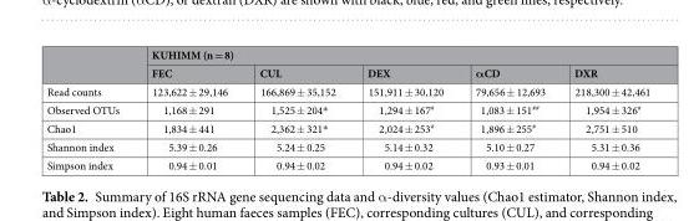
<table><thead><tr><td rowspan="2"></td><td colspan="5">KUHIMM (n = 8)</td></tr><tr><td>FEC</td><td>CUL</td><td>DEX</td><td>αCD</td><td>DXR</td></tr></thead><tbody><tr><td>Read counts</td><td>123,622 ± 29,146</td><td>166,869 ± 35,152</td><td>151,911 ± 30,120</td><td>79,656 ± 12,693</td><td>218,300 ± 42,461</td></tr><tr><td>Observed OTUs</td><td>1,168 ± 291</td><td>1,525 ± 204*</td><td>1,294 ± 167<sup>#</sup></td><td>1,083 ± 151<sup>##</sup></td><td>1,954 ± 326<sup>#</sup></td></tr><tr><td>Chao1</td><td>1,834 ± 441</td><td>2,362 ± 321*</td><td>2,024 ± 253<sup>#</sup></td><td>1,896 ± 255<sup>#</sup></td><td>2,751 ± 510</td></tr><tr><td>Shannon index</td><td>5.39 ± 0.26</td><td>5.24 ± 0.25</td><td>5.14 ± 0.32</td><td>5.10 ± 0.27</td><td>5.31 ± 0.36</td></tr><tr><td>Simpson index</td><td>0.94 ± 0.01</td><td>0.94 ± 0.02</td><td>0.94 ± 0.02</td><td>0.93 ± 0.01</td><td>0.94 ± 0.02</td></tr></tbody></table>